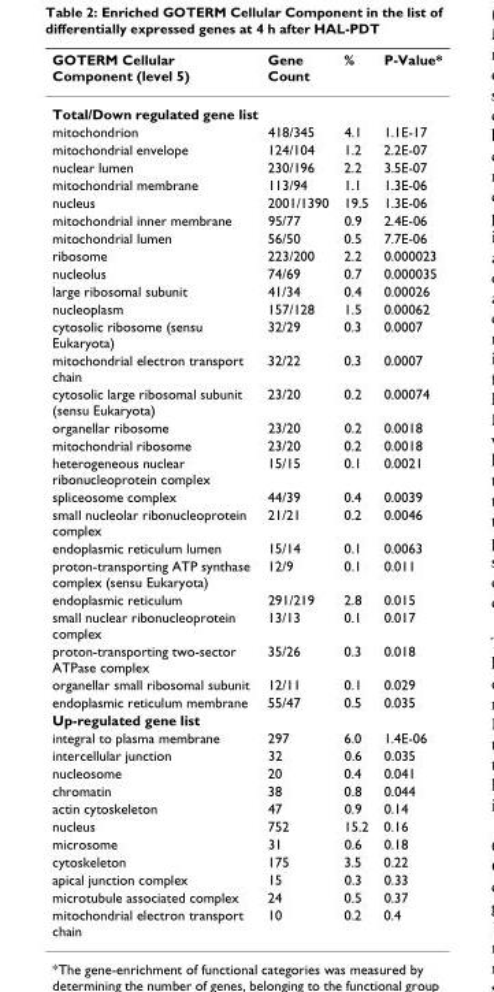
<table><thead><tr><td>GOTERM Cellular Component (level 5)</td><td>Gene Count</td><td>%</td><td>P-Value*</td></tr></thead><tbody><tr><td colspan="4">Total/Down regulated gene list</td></tr><tr><td>mitochondrion</td><td>418/345</td><td>4.1</td><td>1.1E-17</td></tr><tr><td>mitochondrial envelope</td><td>124/104</td><td>1.2</td><td>2.2E-07</td></tr><tr><td>nuclear lumen</td><td>230/196</td><td>2.2</td><td>3.5E-07</td></tr><tr><td>mitochondrial membrane</td><td>113/94</td><td>1.1</td><td>1.3E-06</td></tr><tr><td>nucleus</td><td>2001/1390</td><td>19.5</td><td>1.3E-06</td></tr><tr><td>mitochondrial inner membrane</td><td>95/77</td><td>0.9</td><td>2.4E-06</td></tr><tr><td>mitochondrial lumen</td><td>56/50</td><td>0.5</td><td>7.7E-06</td></tr><tr><td>ribosome</td><td>223/200</td><td>2.2</td><td>0.000023</td></tr><tr><td>nucleolus</td><td>74/69</td><td>0.7</td><td>0.000035</td></tr><tr><td>large ribosomal subunit</td><td>41/34</td><td>0.4</td><td>0.00026</td></tr><tr><td>nucleoplasm</td><td>157/128</td><td>1.5</td><td>0.00062</td></tr><tr><td>cytosolic ribosome (sensu Eukaryota)</td><td>32/29</td><td>0.3</td><td>0.0007</td></tr><tr><td>mitochondrial electron transport chain</td><td>32/22</td><td>0.3</td><td>0.0007</td></tr><tr><td>cytosolic large ribosomal subunit (sensu Eukaryota)</td><td>23/20</td><td>0.2</td><td>0.00074</td></tr><tr><td>organellar ribosome</td><td>23/20</td><td>0.2</td><td>0.0018</td></tr><tr><td>mitochondrial ribosome</td><td>23/20</td><td>0.2</td><td>0.0018</td></tr><tr><td>heterogeneous nuclear ribonucleoprotein complex</td><td>15/15</td><td>0.1</td><td>0.0021</td></tr><tr><td>spliceosome complex</td><td>44/39</td><td>0.4</td><td>0.0039</td></tr><tr><td>small nucleolar ribonucleoprotein complex</td><td>21/21</td><td>0.2</td><td>0.0046</td></tr><tr><td>endoplasmic reticulum lumen</td><td>15/14</td><td>0.1</td><td>0.0063</td></tr><tr><td>proton-transporting ATP synthase complex (sensu Eukaryota)</td><td>12/9</td><td>0.1</td><td>0.011</td></tr><tr><td>endoplasmic reticulum</td><td>291/219</td><td>2.8</td><td>0.015</td></tr><tr><td>small nuclear ribonucleoprotein complex</td><td>13/13</td><td>0.1</td><td>0.017</td></tr><tr><td>proton-transporting two-sector ATPase complex</td><td>35/26</td><td>0.3</td><td>0.018</td></tr><tr><td>organellar small ribosomal subunit</td><td>12/11</td><td>0.1</td><td>0.029</td></tr><tr><td>endoplasmic reticulum membrane</td><td>55/47</td><td>0.5</td><td>0.035</td></tr><tr><td colspan="4">Up-regulated gene list</td></tr><tr><td>integral to plasma membrane</td><td>297</td><td>6.0</td><td>1.4E-06</td></tr><tr><td>intercellular junction</td><td>32</td><td>0.6</td><td>0.035</td></tr><tr><td>nucleosome</td><td>20</td><td>0.4</td><td>0.041</td></tr><tr><td>chromatin</td><td>38</td><td>0.8</td><td>0.044</td></tr><tr><td>actin cytoskeleton</td><td>47</td><td>0.9</td><td>0.14</td></tr><tr><td>nucleus</td><td>752</td><td>15.2</td><td>0.16</td></tr><tr><td>microsome</td><td>31</td><td>0.6</td><td>0.18</td></tr><tr><td>cytoskeleton</td><td>175</td><td>3.5</td><td>0.22</td></tr><tr><td>apical junction complex</td><td>15</td><td>0.3</td><td>0.33</td></tr><tr><td>microtubule associated complex</td><td>24</td><td>0.5</td><td>0.37</td></tr><tr><td>mitochondrial electron transport chain</td><td>10</td><td>0.2</td><td>0.4</td></tr></tbody></table>